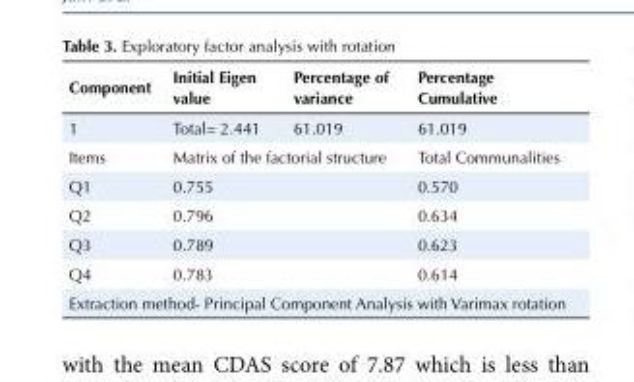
<table><tbody><tr><td>Component</td><td>Initial Eigen value</td><td>Percentage of variance</td><td>Percentage Cumulative</td></tr><tr><td>1</td><td>Total= 2.441</td><td>61.019</td><td>61.019</td></tr><tr><td>Items</td><td colspan="2">Matrix of the factorial structure</td><td>Total Communalities</td></tr><tr><td>Q1</td><td colspan="2">0.755</td><td>0.570</td></tr><tr><td>Q2</td><td colspan="2">0.796</td><td>0.634</td></tr><tr><td>Q3</td><td colspan="2">0.789</td><td>0.623</td></tr><tr><td>Q4</td><td colspan="2">0.783</td><td>0.614</td></tr><tr><td colspan="4">Extraction method- Principal Component Analysis with Varimax rotation</td></tr></tbody></table>